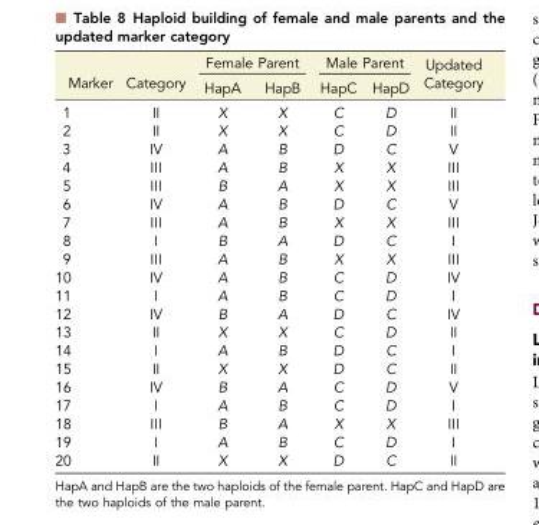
<table><thead><tr><td rowspan="2">Marker</td><td rowspan="2">Category</td><td colspan="2">Female Parent</td><td colspan="2">Male Parent</td><td rowspan="2">Updated Category</td></tr><tr><td>HapA</td><td>HapB</td><td>HapC</td><td>HapD</td></tr></thead><tbody><tr><td>1</td><td>II</td><td>X</td><td>X</td><td>C</td><td>D</td><td>II</td></tr><tr><td>2</td><td>II</td><td>X</td><td>X</td><td>C</td><td>D</td><td>II</td></tr><tr><td>3</td><td>IV</td><td>A</td><td>B</td><td>D</td><td>C</td><td>V</td></tr><tr><td>4</td><td>III</td><td>A</td><td>B</td><td>X</td><td>X</td><td>III</td></tr><tr><td>5</td><td>III</td><td>B</td><td>A</td><td>X</td><td>X</td><td>III</td></tr><tr><td>6</td><td>IV</td><td>A</td><td>B</td><td>D</td><td>C</td><td>V</td></tr><tr><td>7</td><td>III</td><td>A</td><td>B</td><td>X</td><td>X</td><td>III</td></tr><tr><td>8</td><td>I</td><td>B</td><td>A</td><td>D</td><td>C</td><td>I</td></tr><tr><td>9</td><td>III</td><td>A</td><td>B</td><td>X</td><td>X</td><td>III</td></tr><tr><td>10</td><td>IV</td><td>A</td><td>B</td><td>C</td><td>D</td><td>IV</td></tr><tr><td>11</td><td>I</td><td>A</td><td>B</td><td>C</td><td>D</td><td>I</td></tr><tr><td>12</td><td>IV</td><td>B</td><td>A</td><td>D</td><td>C</td><td>IV</td></tr><tr><td>13</td><td>II</td><td>X</td><td>X</td><td>C</td><td>D</td><td>II</td></tr><tr><td>14</td><td>I</td><td>A</td><td>B</td><td>D</td><td>C</td><td>I</td></tr><tr><td>15</td><td>II</td><td>X</td><td>X</td><td>D</td><td>C</td><td>II</td></tr><tr><td>16</td><td>IV</td><td>B</td><td>A</td><td>C</td><td>D</td><td>V</td></tr><tr><td>17</td><td>I</td><td>A</td><td>B</td><td>C</td><td>D</td><td>I</td></tr><tr><td>18</td><td>III</td><td>B</td><td>A</td><td>X</td><td>X</td><td>III</td></tr><tr><td>19</td><td>I</td><td>A</td><td>B</td><td>C</td><td>D</td><td>I</td></tr><tr><td>20</td><td>II</td><td>X</td><td>X</td><td>D</td><td>C</td><td>II</td></tr></tbody></table>